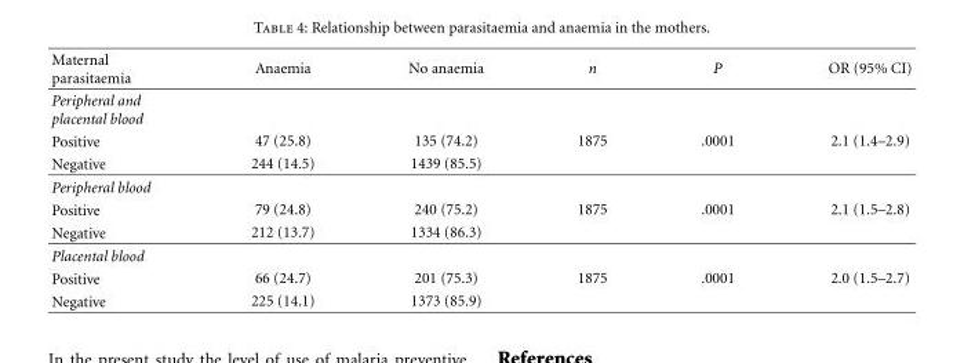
<table><thead><tr><td>Maternal parasitaemia</td><td>Anaemia</td><td>No anaemia</td><td>n</td><td>P</td><td>OR (95% CI)</td></tr></thead><tbody><tr><td colspan="6">Peripheral and placental blood</td></tr><tr><td>Positive</td><td>47 (25.8)</td><td>135 (74.2)</td><td>1875</td><td>.0001</td><td>2.1 (1.4–2.9)</td></tr><tr><td>Negative</td><td>244 (14.5)</td><td>1439 (85.5)</td><td></td><td></td><td></td></tr><tr><td colspan="6">Peripheral blood</td></tr><tr><td>Positive</td><td>79 (24.8)</td><td>240 (75.2)</td><td>1875</td><td>.0001</td><td>2.1 (1.5–2.8)</td></tr><tr><td>Negative</td><td>212 (13.7)</td><td>1334 (86.3)</td><td></td><td></td><td></td></tr><tr><td colspan="6">Placental blood</td></tr><tr><td>Positive</td><td>66 (24.7)</td><td>201 (75.3)</td><td>1875</td><td>.0001</td><td>2.0 (1.5–2.7)</td></tr><tr><td>Negative</td><td>225 (14.1)</td><td>1373 (85.9)</td><td></td><td></td><td></td></tr></tbody></table>